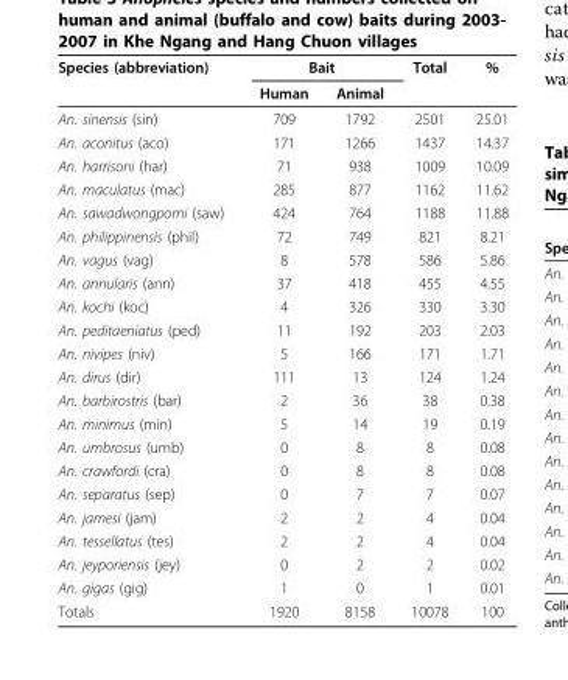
<table><thead><tr><td rowspan="2">Species (abbreviation)</td><td colspan="2">Bait</td><td rowspan="2">Total</td><td rowspan="2">%</td></tr><tr><td>Human</td><td>Animal</td></tr></thead><tbody><tr><td>An. sinensis (sin)</td><td>709</td><td>1792</td><td>2501</td><td>25.01</td></tr><tr><td>An. aconitus (aco)</td><td>171</td><td>1266</td><td>1437</td><td>14.37</td></tr><tr><td>An. harrisoni (har)</td><td>71</td><td>938</td><td>1009</td><td>10.09</td></tr><tr><td>An. maculatus (mac)</td><td>285</td><td>877</td><td>1162</td><td>11.62</td></tr><tr><td>An. sawadwongporni (saw)</td><td>424</td><td>764</td><td>1188</td><td>11.88</td></tr><tr><td>An. philippinensis (phil)</td><td>72</td><td>749</td><td>821</td><td>8.21</td></tr><tr><td>An. vagus (vag)</td><td>8</td><td>578</td><td>586</td><td>5.86</td></tr><tr><td>An. annularis (ann)</td><td>37</td><td>418</td><td>455</td><td>4.55</td></tr><tr><td>An. kochi (koc)</td><td>4</td><td>326</td><td>330</td><td>3.30</td></tr><tr><td>An. peditaeniatus (ped)</td><td>11</td><td>192</td><td>203</td><td>2.03</td></tr><tr><td>An. nivipes (niv)</td><td>5</td><td>166</td><td>171</td><td>1.71</td></tr><tr><td>An. dirus (dir)</td><td>111</td><td>13</td><td>124</td><td>1.24</td></tr><tr><td>An. barbirostris (bar)</td><td>2</td><td>36</td><td>38</td><td>0.38</td></tr><tr><td>An. minimus (min)</td><td>5</td><td>14</td><td>19</td><td>0.19</td></tr><tr><td>An. umbrosus (umb)</td><td>0</td><td>8</td><td>8</td><td>0.08</td></tr><tr><td>An. crawfordi (cra)</td><td>0</td><td>8</td><td>8</td><td>0.08</td></tr><tr><td>An. separatus (sep)</td><td>0</td><td>7</td><td>7</td><td>0.07</td></tr><tr><td>An. jamesi (jam)</td><td>2</td><td>2</td><td>4</td><td>0.04</td></tr><tr><td>An. tessellatus (tes)</td><td>2</td><td>2</td><td>4</td><td>0.04</td></tr><tr><td>An. jeyporiensis (jey)</td><td>0</td><td>2</td><td>2</td><td>0.02</td></tr><tr><td>An. gigas (gig)</td><td>1</td><td>0</td><td>1</td><td>0.01</td></tr><tr><td>Totals</td><td>1920</td><td>8158</td><td>10078</td><td>100</td></tr></tbody></table>